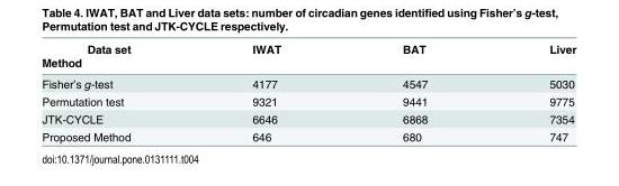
<table><thead><tr><td rowspan="2">Data set Method</td><td rowspan="2">IWAT</td><td rowspan="2">BAT</td><td rowspan="2">Liver</td></tr><tr></tr></thead><tbody><tr><td>Fisher’s g-test</td><td>4177</td><td>4547</td><td>5030</td></tr><tr><td>Permutation test</td><td>9321</td><td>9441</td><td>9775</td></tr><tr><td>JTK-CYCLE</td><td>6646</td><td>6868</td><td>7354</td></tr><tr><td>Proposed Method</td><td>646</td><td>680</td><td>747</td></tr></tbody></table>